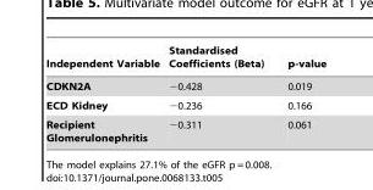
<table><thead><tr><td>Independent Variable</td><td>Standardised Coefficients (Beta)</td><td>p-value</td></tr></thead><tbody><tr><td>CDKN2A</td><td>−0.428</td><td>0.019</td></tr><tr><td>ECD Kidney</td><td>−0.236</td><td>0.166</td></tr><tr><td>Recipient Glomerulonephritis</td><td>−0.311</td><td>0.061</td></tr></tbody></table>